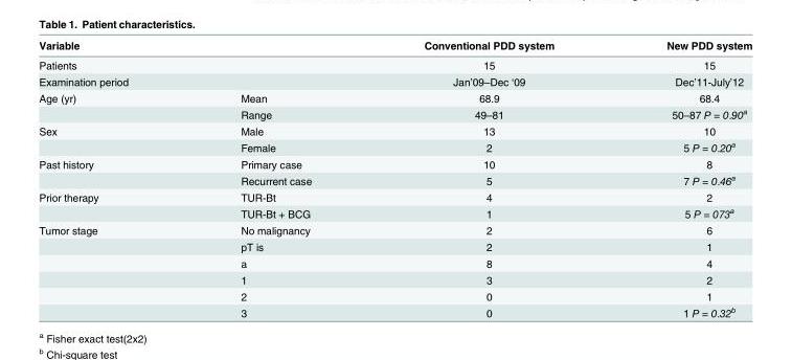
<table><thead><tr><td>Variable</td><td></td><td>Conventional PDD system</td><td>New PDD system</td></tr></thead><tbody><tr><td>Patients</td><td></td><td>15</td><td>15</td></tr><tr><td>Examination period</td><td></td><td>Jan’09–Dec ‘09</td><td>Dec’11-July’12</td></tr><tr><td rowspan="2">Age (yr)</td><td>Mean</td><td>68.9</td><td>68.4</td></tr><tr><td>Range</td><td>49–81</td><td>50–87 P = 0.90<sup>a</sup></td></tr><tr><td rowspan="2">Sex</td><td>Male</td><td>13</td><td>10</td></tr><tr><td>Female</td><td>2</td><td>5 P = 0.20<sup>a</sup></td></tr><tr><td rowspan="2">Past history</td><td>Primary case</td><td>10</td><td>8</td></tr><tr><td>Recurrent case</td><td>5</td><td>7 P = 0.46<sup>a</sup></td></tr><tr><td rowspan="2">Prior therapy</td><td>TUR-Bt</td><td>4</td><td>2</td></tr><tr><td>TUR-Bt + BCG</td><td>1</td><td>5 P = 073<sup>a</sup></td></tr><tr><td rowspan="6">Tumor stage</td><td>No malignancy</td><td>2</td><td>6</td></tr><tr><td>pT is</td><td>2</td><td>1</td></tr><tr><td>a</td><td>8</td><td>4</td></tr><tr><td>1</td><td>3</td><td>2</td></tr><tr><td>2</td><td>0</td><td>1</td></tr><tr><td>3</td><td>0</td><td>1 P = 0.32<sup>b</sup></td></tr></tbody></table>